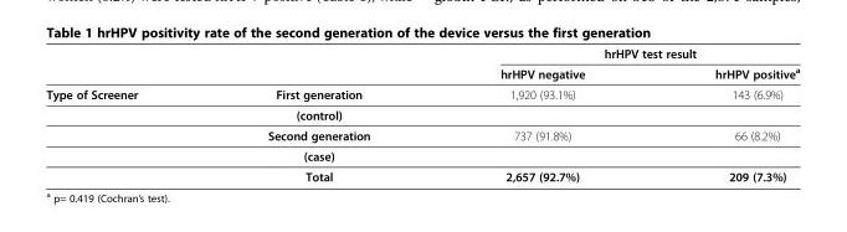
<table><thead><tr><td rowspan="2"></td><td rowspan="2"></td><td colspan="2">hrHPV test result</td></tr><tr><td>hrHPV negative</td><td>hrHPV positive<sup>a</sup></td></tr></thead><tbody><tr><td rowspan="5">Type of Screener</td><td>First generation</td><td>1,920 (93.1%)</td><td>143 (6.9%)</td></tr><tr><td>(control)</td><td></td><td></td></tr><tr><td>Second generation</td><td>737 (91.8%)</td><td>66 (8.2%)</td></tr><tr><td>(case)</td><td></td><td></td></tr><tr><td>Total</td><td>2,657 (92.7%)</td><td>209 (7.3%)</td></tr></tbody></table>